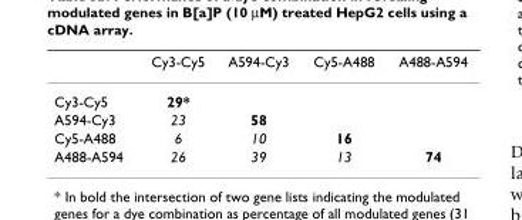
<table><thead><tr><td></td><td>Cy3-Cy5</td><td>A594-Cy3</td><td>Cy5-A488</td><td>A488-A594</td></tr></thead><tbody><tr><td>Cy3-Cy5</td><td>29*</td><td></td><td></td><td></td></tr><tr><td>A594-Cy3</td><td>23</td><td>58</td><td></td><td></td></tr><tr><td>Cy5-A488</td><td>6</td><td>10</td><td>16</td><td></td></tr><tr><td>A488-A594</td><td>26</td><td>39</td><td>13</td><td>74</td></tr></tbody></table>